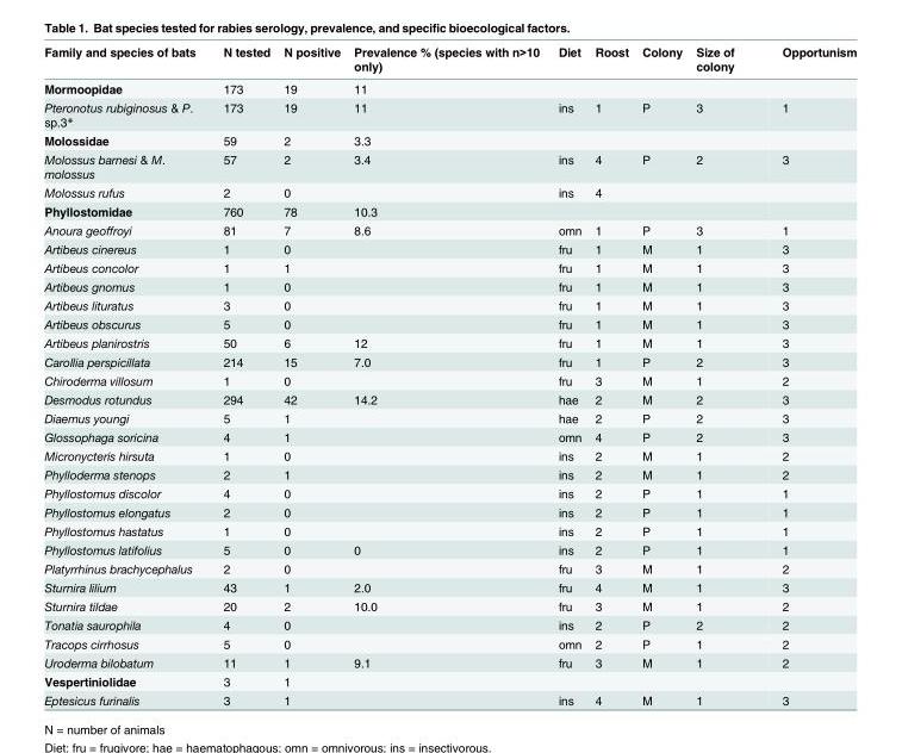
<table><thead><tr><td>Family and species of bats</td><td>N tested</td><td>N positive</td><td>Prevalence % (species with n&gt;10 only)</td><td>Diet</td><td>Roost</td><td>Colony</td><td>Size of colony</td><td>Opportunism</td></tr></thead><tbody><tr><td>Mormoopidae</td><td>173</td><td>19</td><td>11</td><td></td><td></td><td></td><td></td><td></td></tr><tr><td>Pteronotus rubiginosus &amp; P. sp.3*</td><td>173</td><td>19</td><td>11</td><td>ins</td><td>1</td><td>P</td><td>3</td><td>1</td></tr><tr><td>Molossidae</td><td>59</td><td>2</td><td>3.3</td><td></td><td></td><td></td><td></td><td></td></tr><tr><td>Molossus barnesi &amp; M. molossus</td><td>57</td><td>2</td><td>3.4</td><td>ins</td><td>4</td><td>P</td><td>2</td><td>3</td></tr><tr><td>Molossus rufus</td><td>2</td><td>0</td><td></td><td>ins</td><td>4</td><td></td><td></td><td></td></tr><tr><td>Phyllostomidae</td><td>760</td><td>78</td><td>10.3</td><td></td><td></td><td></td><td></td><td></td></tr><tr><td>Anoura geoffroyi</td><td>81</td><td>7</td><td>8.6</td><td>omn</td><td>1</td><td>P</td><td>3</td><td>1</td></tr><tr><td>Artibeus cinereus</td><td>1</td><td>0</td><td></td><td>fru</td><td>1</td><td>M</td><td>1</td><td>3</td></tr><tr><td>Artibeus concolor</td><td>1</td><td>1</td><td></td><td>fru</td><td>1</td><td>M</td><td>1</td><td>3</td></tr><tr><td>Artibeus gnomus</td><td>1</td><td>0</td><td></td><td>fru</td><td>1</td><td>M</td><td>1</td><td>3</td></tr><tr><td>Artibeus lituratus</td><td>3</td><td>0</td><td></td><td>fru</td><td>1</td><td>M</td><td>1</td><td>3</td></tr><tr><td>Artibeus obscurus</td><td>5</td><td>0</td><td></td><td>fru</td><td>1</td><td>M</td><td>1</td><td>3</td></tr><tr><td>Artibeus planirostris</td><td>50</td><td>6</td><td>12</td><td>fru</td><td>1</td><td>M</td><td>1</td><td>3</td></tr><tr><td>Carollia perspicillata</td><td>214</td><td>15</td><td>7.0</td><td>fru</td><td>1</td><td>P</td><td>2</td><td>3</td></tr><tr><td>Chiroderma villosum</td><td>1</td><td>0</td><td></td><td>fru</td><td>3</td><td>M</td><td>1</td><td>2</td></tr><tr><td>Desmodus rotundus</td><td>294</td><td>42</td><td>14.2</td><td>hae</td><td>2</td><td>M</td><td>2</td><td>3</td></tr><tr><td>Diaemus youngi</td><td>5</td><td>1</td><td></td><td>hae</td><td>2</td><td>P</td><td>2</td><td>3</td></tr><tr><td>Glossophaga soricina</td><td>4</td><td>1</td><td></td><td>omn</td><td>4</td><td>P</td><td>2</td><td>3</td></tr><tr><td>Micronycteris hirsuta</td><td>1</td><td>0</td><td></td><td>ins</td><td>2</td><td>M</td><td>1</td><td>2</td></tr><tr><td>Phylloderma stenops</td><td>2</td><td>1</td><td></td><td>ins</td><td>2</td><td>M</td><td>1</td><td>2</td></tr><tr><td>Phyllostomus discolor</td><td>4</td><td>0</td><td></td><td>ins</td><td>2</td><td>P</td><td>1</td><td>1</td></tr><tr><td>Phyllostomus elongatus</td><td>2</td><td>0</td><td></td><td>ins</td><td>2</td><td>P</td><td>1</td><td>1</td></tr><tr><td>Phyllostomus hastatus</td><td>1</td><td>0</td><td></td><td>ins</td><td>2</td><td>P</td><td>1</td><td>1</td></tr><tr><td>Phyllostomus latifolius</td><td>5</td><td>0</td><td>0</td><td>ins</td><td>2</td><td>P</td><td>1</td><td>1</td></tr><tr><td>Platyrrhinus brachycephalus</td><td>2</td><td>0</td><td></td><td>fru</td><td>3</td><td>M</td><td>1</td><td>2</td></tr><tr><td>Sturnira lilium</td><td>43</td><td>1</td><td>2.0</td><td>fru</td><td>4</td><td>M</td><td>1</td><td>3</td></tr><tr><td>Sturnira tildae</td><td>20</td><td>2</td><td>10.0</td><td>fru</td><td>3</td><td>M</td><td>1</td><td>2</td></tr><tr><td>Tonatia saurophila</td><td>4</td><td>0</td><td></td><td>ins</td><td>2</td><td>P</td><td>2</td><td>2</td></tr><tr><td>Tracops cirrhosus</td><td>5</td><td>0</td><td></td><td>omn</td><td>2</td><td>P</td><td>1</td><td>2</td></tr><tr><td>Uroderma bilobatum</td><td>11</td><td>1</td><td>9.1</td><td>fru</td><td>3</td><td>M</td><td>1</td><td>2</td></tr><tr><td>Vespertiniolidae</td><td>3</td><td>1</td><td></td><td></td><td></td><td></td><td></td><td></td></tr><tr><td>Eptesicus furinalis</td><td>3</td><td>1</td><td></td><td>ins</td><td>4</td><td>M</td><td>1</td><td>3</td></tr></tbody></table>